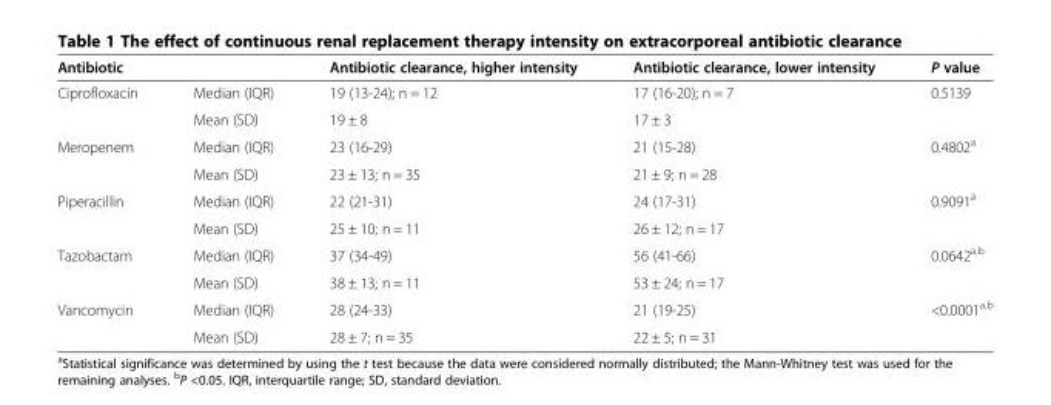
<table><thead><tr><td>Antibiotic</td><td></td><td>Antibiotic clearance, higher intensity</td><td>Antibiotic clearance, lower intensity</td><td>P value</td></tr></thead><tbody><tr><td rowspan="2">Ciprofloxacin</td><td>Median (IQR)</td><td>19 (13-24); n = 12</td><td>17 (16-20); n = 7</td><td rowspan="2">0.5139</td></tr><tr><td>Mean (SD)</td><td>19 ± 8</td><td>17 ± 3</td></tr><tr><td rowspan="2">Meropenem</td><td>Median (IQR)</td><td>23 (16-29)</td><td>21 (15-28)</td><td rowspan="2">0.4802<sup>a</sup></td></tr><tr><td>Mean (SD)</td><td>23 ± 13; n = 35</td><td>21 ± 9; n = 28</td></tr><tr><td rowspan="2">Piperacillin</td><td>Median (IQR)</td><td>22 (21-31)</td><td>24 (17-31)</td><td rowspan="2">0.9091<sup>a</sup></td></tr><tr><td>Mean (SD)</td><td>25 ± 10; n = 11</td><td>26 ± 12; n = 17</td></tr><tr><td rowspan="2">Tazobactam</td><td>Median (IQR)</td><td>37 (34-49)</td><td>56 (41-66)</td><td rowspan="2">0.0642<sup>a,b</sup></td></tr><tr><td>Mean (SD)</td><td>38 ± 13; n = 11</td><td>53 ± 24; n = 17</td></tr><tr><td rowspan="2">Vancomycin</td><td>Median (IQR)</td><td>28 (24-33)</td><td>21 (19-25)</td><td rowspan="2">&lt;0.0001<sup>a,b</sup></td></tr><tr><td>Mean (SD)</td><td>28 ± 7; n = 35</td><td>22 ± 5; n = 31</td></tr></tbody></table>